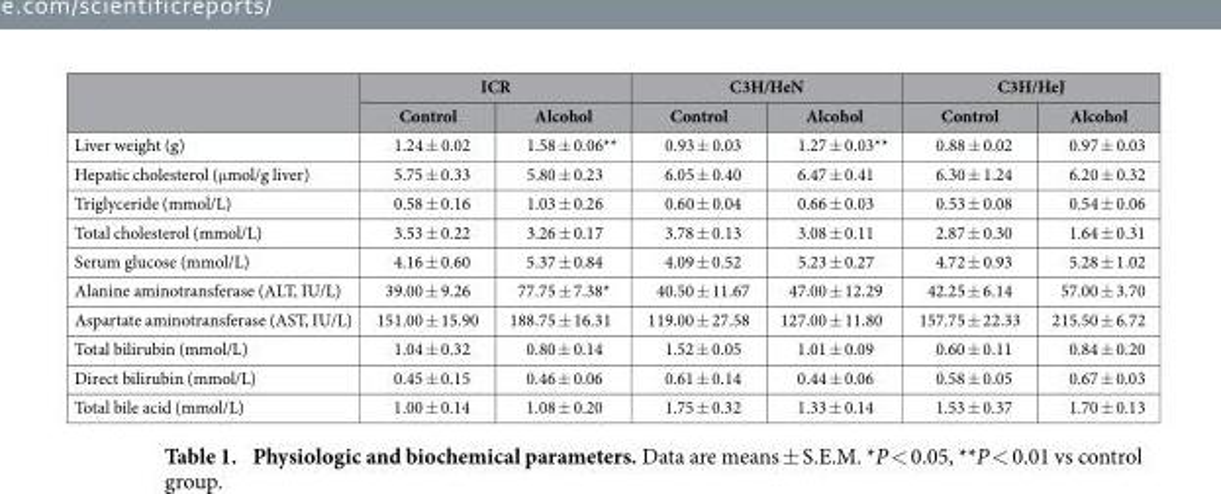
<table><thead><tr><td rowspan="2"></td><td colspan="2">ICR</td><td colspan="2">C3H/HeN</td><td colspan="2">C3H/HeJ</td></tr><tr><td>Control</td><td>Alcohol</td><td>Control</td><td>Alcohol</td><td>Control</td><td>Alcohol</td></tr></thead><tbody><tr><td>Liver weight (g)</td><td>1.24 ± 0.02</td><td>1.58 ± 0.06**</td><td>0.93 ± 0.03</td><td>1.27 ± 0.03**</td><td>0.88 ± 0.02</td><td>0.97 ± 0.03</td></tr><tr><td>Hepatic cholesterol (μ mol/g liver)</td><td>5.75 ± 0.33</td><td>5.80 ± 0.23</td><td>6.05 ± 0.40</td><td>6.47 ± 0.41</td><td>6.30 ± 1.24</td><td>6.20 ± 0.32</td></tr><tr><td>Triglyceride (mmol/L)</td><td>0.58 ± 0.16</td><td>1.03 ± 0.26</td><td>0.60 ± 0.04</td><td>0.66 ± 0.03</td><td>0.53 ± 0.08</td><td>0.54 ± 0.06</td></tr><tr><td>Total cholesterol (mmol/L)</td><td>3.53 ± 0.22</td><td>3.26 ± 0.17</td><td>3.78 ± 0.13</td><td>3.08 ± 0.11</td><td>2.87 ± 0.30</td><td>1.64 ± 0.31</td></tr><tr><td>Serum glucose (mmol/L)</td><td>4.16 ± 0.60</td><td>5.37 ± 0.84</td><td>4.09 ± 0.52</td><td>5.23 ± 0.27</td><td>4.72 ± 0.93</td><td>5.28 ± 1.02</td></tr><tr><td>Alanine aminotransferase (ALT, IU/L)</td><td>39.00 ± 9.26</td><td>77.75 ± 7.38*</td><td>40.50 ± 11.67</td><td>47.00 ± 12.29</td><td>42.25 ± 6.14</td><td>57.00 ± 3.70</td></tr><tr><td>Aspartate aminotransferase (AST, IU/L)</td><td>151.00 ± 15.90</td><td>188.75 ± 16.31</td><td>119.00 ± 27.58</td><td>127.00 ± 11.80</td><td>157.75 ± 22.33</td><td>215.50 ± 6.72</td></tr><tr><td>Total bilirubin (mmol/L)</td><td>1.04 ± 0.32</td><td>0.80 ± 0.14</td><td>1.52 ± 0.05</td><td>1.01 ± 0.09</td><td>0.60 ± 0.11</td><td>0.84 ± 0.20</td></tr><tr><td>Direct bilirubin (mmol/L)</td><td>0.45 ± 0.15</td><td>0.46 ± 0.06</td><td>0.61 ± 0.14</td><td>0.44 ± 0.06</td><td>0.58 ± 0.05</td><td>0.67 ± 0.03</td></tr><tr><td>Total bile acid (mmol/L)</td><td>1.00 ± 0.14</td><td>1.08 ± 0.20</td><td>1.75 ± 0.32</td><td>1.33 ± 0.14</td><td>1.53 ± 0.37</td><td>1.70 ± 0.13</td></tr></tbody></table>